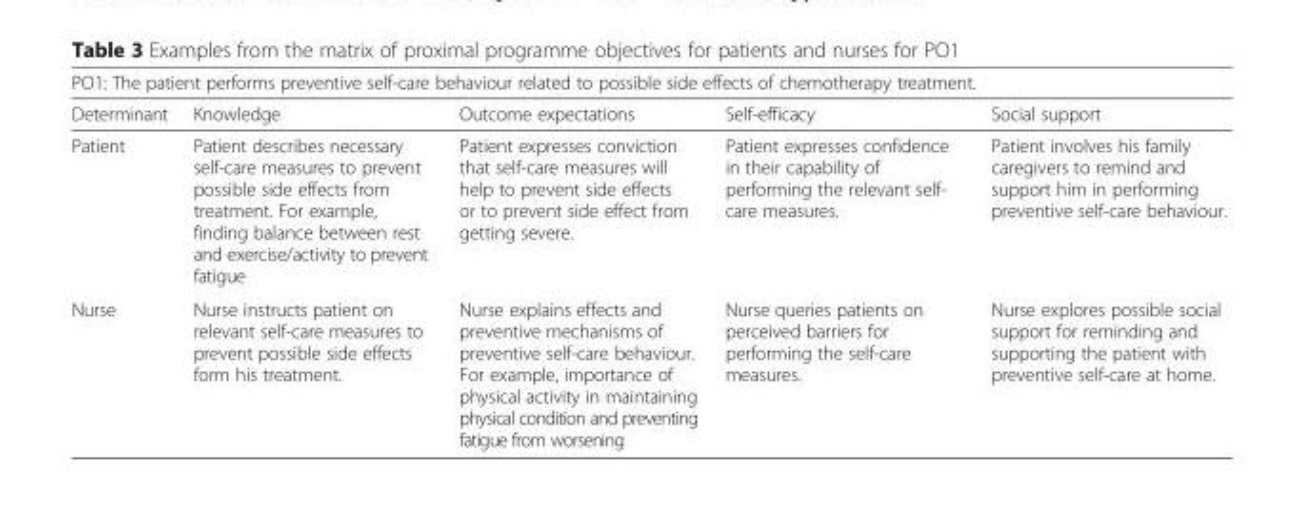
<table><thead><tr><td colspan="5">PO1: The patient performs preventive self-care behaviour related to possible side effects of chemotherapy treatment.</td></tr><tr><td>Determinant</td><td>Knowledge</td><td>Outcome expectations</td><td>Self-efficacy</td><td>Social support</td></tr></thead><tbody><tr><td>Patient</td><td>Patient describes necessary self-care measures to prevent possible side effects from treatment. For example, finding balance between rest and exercise/activity to prevent fatigue</td><td>Patient expresses conviction that self-care measures will help to prevent side effects or to prevent side effect from getting severe.</td><td>Patient expresses confidence in their capability of performing the relevant self- care measures.</td><td>Patient involves his family caregivers to remind and support him in performing preventive self-care behaviour.</td></tr><tr><td>Nurse</td><td>Nurse instructs patient on relevant self-care measures to prevent possible side effects form his treatment.</td><td>Nurse explains effects and preventive mechanisms of preventive self-care behaviour. For example, importance of physical activity in maintaining physical condition and preventing fatigue from worsening</td><td>Nurse queries patients on perceived barriers for performing the self-care measures.</td><td>Nurse explores possible social support for reminding and supporting the patient with preventive self-care at home.</td></tr></tbody></table>